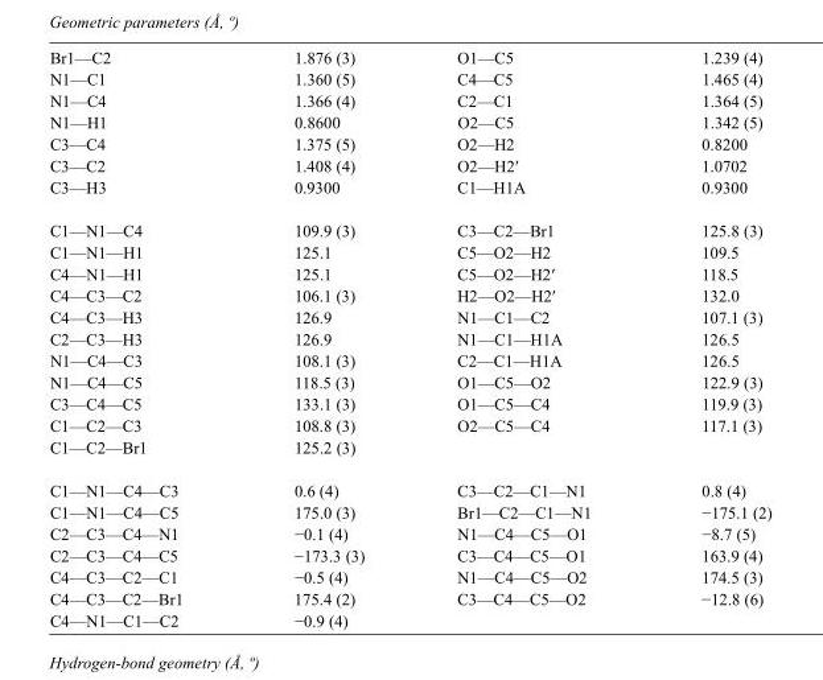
<table><tbody><tr><td>Br1—C2</td><td>1.876 (3)</td><td>O1—C5</td><td>1.239 (4)</td></tr><tr><td>N1—C1</td><td>1.360 (5)</td><td>C4—C5</td><td>1.465 (4)</td></tr><tr><td>N1—C4</td><td>1.366 (4)</td><td>C2—C1</td><td>1.364 (5)</td></tr><tr><td>N1—H1</td><td>0.8600</td><td>O2—C5</td><td>1.342 (5)</td></tr><tr><td>C3—C4</td><td>1.375 (5)</td><td>O2—H2</td><td>0.8200</td></tr><tr><td>C3—C2</td><td>1.408 (4)</td><td>O2—H2′</td><td>1.0702</td></tr><tr><td>C3—H3</td><td>0.9300</td><td>C1—H1A</td><td>0.9300</td></tr><tr><td>C1—N1—C4</td><td>109.9 (3)</td><td>C3—C2—Br1</td><td>125.8 (3)</td></tr><tr><td>C1—N1—H1</td><td>125.1</td><td>C5—O2—H2</td><td>109.5</td></tr><tr><td>C4—N1—H1</td><td>125.1</td><td>C5—O2—H2′</td><td>118.5</td></tr><tr><td>C4—C3—C2</td><td>106.1 (3)</td><td>H2—O2—H2′</td><td>132.0</td></tr><tr><td>C4—C3—H3</td><td>126.9</td><td>N1—C1—C2</td><td>107.1 (3)</td></tr><tr><td>C2—C3—H3</td><td>126.9</td><td>N1—C1—H1A</td><td>126.5</td></tr><tr><td>N1—C4—C3</td><td>108.1 (3)</td><td>C2—C1—H1A</td><td>126.5</td></tr><tr><td>N1—C4—C5</td><td>118.5 (3)</td><td>O1—C5—O2</td><td>122.9 (3)</td></tr><tr><td>C3—C4—C5</td><td>133.1 (3)</td><td>O1—C5—C4</td><td>119.9 (3)</td></tr><tr><td>C1—C2—C3</td><td>108.8 (3)</td><td>O2—C5—C4</td><td>117.1 (3)</td></tr><tr><td>C1—C2—Br1</td><td>125.2 (3)</td><td></td><td></td></tr><tr><td>C1—N1—C4—C3</td><td>0.6 (4)</td><td>C3—C2—C1—N1</td><td>0.8 (4)</td></tr><tr><td>C1—N1—C4—C5</td><td>175.0 (3)</td><td>Br1—C2—C1—N1</td><td>−175.1 (2)</td></tr><tr><td>C2—C3—C4—N1</td><td>−0.1 (4)</td><td>N1—C4—C5—O1</td><td>−8.7 (5)</td></tr><tr><td>C2—C3—C4—C5</td><td>−173.3 (3)</td><td>C3—C4—C5—O1</td><td>163.9 (4)</td></tr><tr><td>C4—C3—C2—C1</td><td>−0.5 (4)</td><td>N1—C4—C5—O2</td><td>174.5 (3)</td></tr><tr><td>C4—C3—C2—Br1</td><td>175.4 (2)</td><td>C3—C4—C5—O2</td><td>−12.8 (6)</td></tr><tr><td>C4—N1—C1—C2</td><td>−0.9 (4)</td><td></td><td></td></tr></tbody></table>